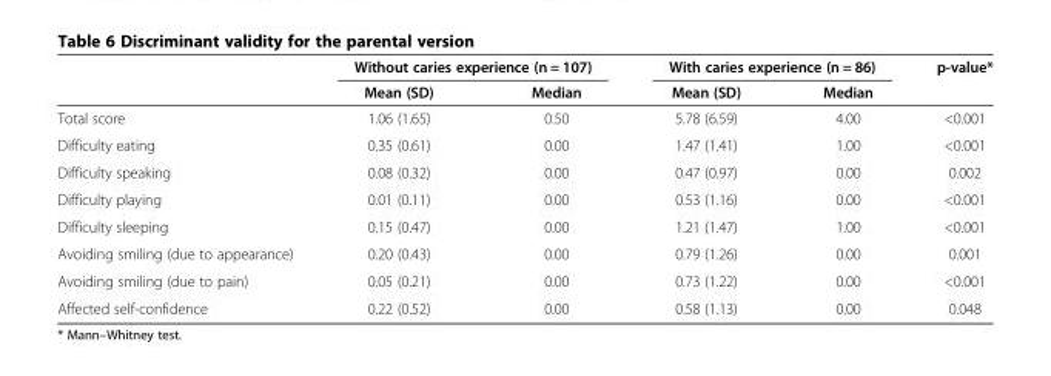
<table><thead><tr><td rowspan="2"></td><td colspan="2">Without caries experience (n = 107)</td><td colspan="2">With caries experience (n = 86)</td><td rowspan="2">p-value*</td></tr><tr><td>Mean (SD)</td><td>Median</td><td>Mean (SD)</td><td>Median</td></tr></thead><tbody><tr><td>Total score</td><td>1.06 (1.65)</td><td>0.50</td><td>5.78 (6.59)</td><td>4.00</td><td>&lt;0.001</td></tr><tr><td>Difficulty eating</td><td>0.35 (0.61)</td><td>0.00</td><td>1.47 (1.41)</td><td>1.00</td><td>&lt;0.001</td></tr><tr><td>Difficulty speaking</td><td>0.08 (0.32)</td><td>0.00</td><td>0.47 (0.97)</td><td>0.00</td><td>0.002</td></tr><tr><td>Difficulty playing</td><td>0.01 (0.11)</td><td>0.00</td><td>0.53 (1.16)</td><td>0.00</td><td>&lt;0.001</td></tr><tr><td>Difficulty sleeping</td><td>0.15 (0.47)</td><td>0.00</td><td>1.21 (1.47)</td><td>1.00</td><td>&lt;0.001</td></tr><tr><td>Avoiding smiling (due to appearance)</td><td>0.20 (0.43)</td><td>0.00</td><td>0.79 (1.26)</td><td>0.00</td><td>0.001</td></tr><tr><td>Avoiding smiling (due to pain)</td><td>0.05 (0.21)</td><td>0.00</td><td>0.73 (1.22)</td><td>0.00</td><td>&lt;0.001</td></tr><tr><td>Affected self-confidence</td><td>0.22 (0.52)</td><td>0.00</td><td>0.58 (1.13)</td><td>0.00</td><td>0.048</td></tr></tbody></table>